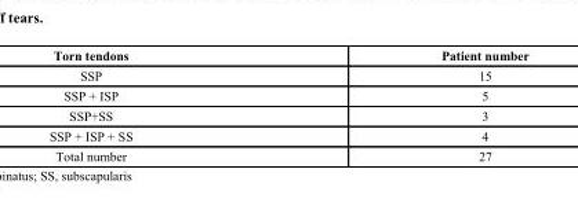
<table><thead><tr><td>Torn tendons</td><td>Patient number</td></tr></thead><tbody><tr><td>SSP</td><td>15</td></tr><tr><td>SSP + ISP</td><td>5</td></tr><tr><td>SSP+SS</td><td>3</td></tr><tr><td>SSP + ISP + SS</td><td>4</td></tr><tr><td>Total number</td><td>27</td></tr></tbody></table>